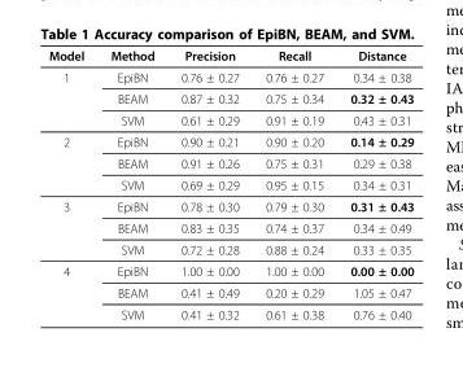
<table><thead><tr><td>Model</td><td>Method</td><td>Precision</td><td>Recall</td><td>Distance</td></tr></thead><tbody><tr><td rowspan="3">1</td><td>EpiBN</td><td>0.76 ± 0.27</td><td>0.76 ± 0.27</td><td>0.34 ± 0.38</td></tr><tr><td>BEAM</td><td>0.87 ± 0.32</td><td>0.75 ± 0.34</td><td>0.32 ± 0.43</td></tr><tr><td>SVM</td><td>0.61 ± 0.29</td><td>0.91 ± 0.19</td><td>0.43 ± 0.31</td></tr><tr><td rowspan="3">2</td><td>EpiBN</td><td>0.90 ± 0.21</td><td>0.90 ± 0.20</td><td>0.14 ± 0.29</td></tr><tr><td>BEAM</td><td>0.91 ± 0.26</td><td>0.75 ± 0.31</td><td>0.29 ± 0.38</td></tr><tr><td>SVM</td><td>0.69 ± 0.29</td><td>0.95 ± 0.15</td><td>0.34 ± 0.31</td></tr><tr><td rowspan="3">3</td><td>EpiBN</td><td>0.78 ± 0.30</td><td>0.79 ± 0.30</td><td>0.31 ± 0.43</td></tr><tr><td>BEAM</td><td>0.83 ± 0.35</td><td>0.74 ± 0.37</td><td>0.34 ± 0.49</td></tr><tr><td>SVM</td><td>0.72 ± 0.28</td><td>0.88 ± 0.24</td><td>0.33 ± 0.35</td></tr><tr><td rowspan="3">4</td><td>EpiBN</td><td>1.00 ± 0.00</td><td>1.00 ± 0.00</td><td>0.00 ± 0.00</td></tr><tr><td>BEAM</td><td>0.41 ± 0.49</td><td>0.20 ± 0.29</td><td>1.05 ± 0.47</td></tr><tr><td>SVM</td><td>0.41 ± 0.32</td><td>0.61 ± 0.38</td><td>0.76 ± 0.40</td></tr></tbody></table>